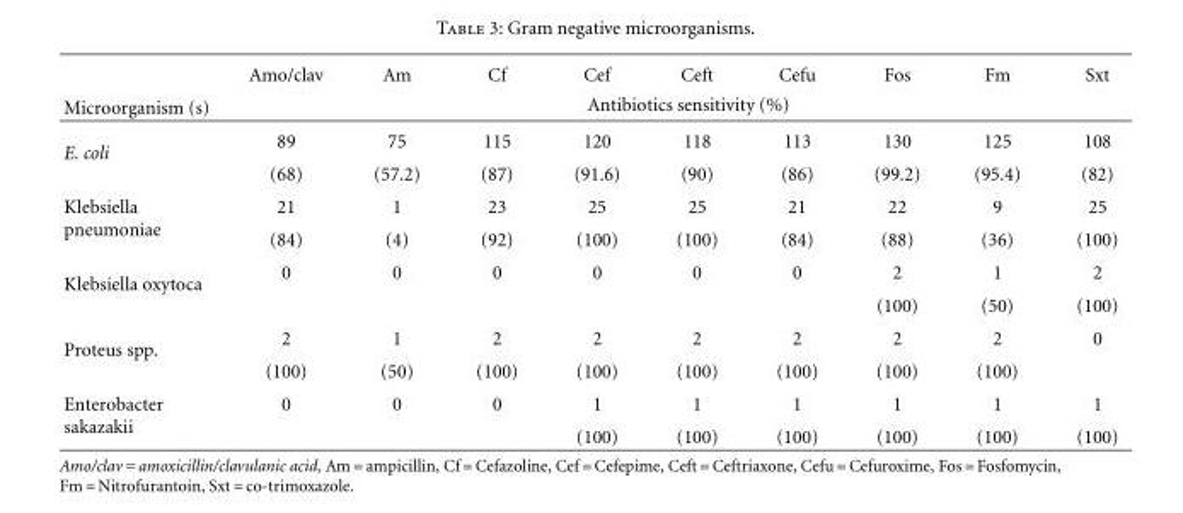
<table><thead><tr><td rowspan="2">Microorganism (s)</td><td>Amo/clav</td><td>Am</td><td>Cf</td><td>Cef</td><td>Ceft</td><td>Cefu</td><td>Fos</td><td>Fm</td><td>Sxt</td></tr><tr><td colspan="9">Antibiotics sensitivity (%)</td></tr></thead><tbody><tr><td rowspan="2">E. coli</td><td>89</td><td>75</td><td>115</td><td>120</td><td>118</td><td>113</td><td>130</td><td>125</td><td>108</td></tr><tr><td>(68)</td><td>(57.2)</td><td>(87)</td><td>(91.6)</td><td>(90)</td><td>(86)</td><td>(99.2)</td><td>(95.4)</td><td>(82)</td></tr><tr><td rowspan="2">Klebsiella pneumoniae</td><td>21</td><td>1</td><td>23</td><td>25</td><td>25</td><td>21</td><td>22</td><td>9</td><td>25</td></tr><tr><td>(84)</td><td>(4)</td><td>(92)</td><td>(100)</td><td>(100)</td><td>(84)</td><td>(88)</td><td>(36)</td><td>(100)</td></tr><tr><td rowspan="2">Klebsiella oxytoca</td><td>0</td><td>0</td><td>0</td><td>0</td><td>0</td><td>0</td><td>2</td><td>1</td><td>2</td></tr><tr><td></td><td></td><td></td><td></td><td></td><td></td><td>(100)</td><td>(50)</td><td>(100)</td></tr><tr><td rowspan="2">Proteus spp.</td><td>2</td><td>1</td><td>2</td><td>2</td><td>2</td><td>2</td><td>2</td><td>2</td><td>0</td></tr><tr><td>(100)</td><td>(50)</td><td>(100)</td><td>(100)</td><td>(100)</td><td>(100)</td><td>(100)</td><td>(100)</td><td></td></tr><tr><td rowspan="2">Enterobacter sakazakii</td><td>0</td><td>0</td><td>0</td><td>1</td><td>1</td><td>1</td><td>1</td><td>1</td><td>1</td></tr><tr><td></td><td></td><td></td><td>(100)</td><td>(100)</td><td>(100)</td><td>(100)</td><td>(100)</td><td>(100)</td></tr></tbody></table>